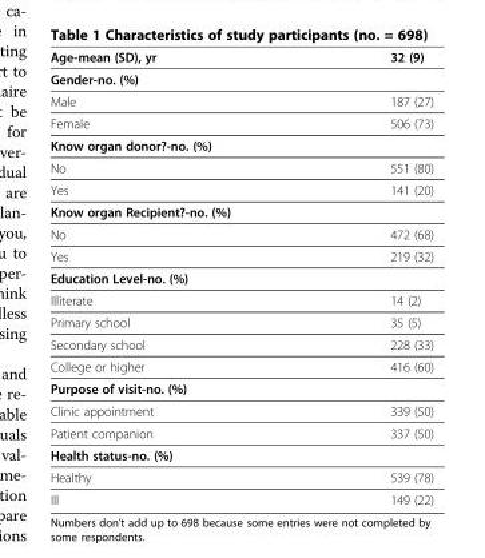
<table><thead><tr><td>Age-mean (SD), yr</td><td>32 (9)</td></tr></thead><tbody><tr><td colspan="2">Gender-no. (%)</td></tr><tr><td>Male</td><td>187 (27)</td></tr><tr><td>Female</td><td>506 (73)</td></tr><tr><td colspan="2">Know organ donor?-no. (%)</td></tr><tr><td>No</td><td>551 (80)</td></tr><tr><td>Yes</td><td>141 (20)</td></tr><tr><td colspan="2">Know organ Recipient?-no. (%)</td></tr><tr><td>No</td><td>472 (68)</td></tr><tr><td>Yes</td><td>219 (32)</td></tr><tr><td colspan="2">Education Level-no. (%)</td></tr><tr><td>Illiterate</td><td>14 (2)</td></tr><tr><td>Primary school</td><td>35 (5)</td></tr><tr><td>Secondary school</td><td>228 (33)</td></tr><tr><td>College or higher</td><td>416 (60)</td></tr><tr><td colspan="2">Purpose of visit-no. (%)</td></tr><tr><td>Clinic appointment</td><td>339 (50)</td></tr><tr><td>Patient companion</td><td>337 (50)</td></tr><tr><td colspan="2">Health status-no. (%)</td></tr><tr><td>Healthy</td><td>539 (78)</td></tr><tr><td>Ill</td><td>149 (22)</td></tr></tbody></table>